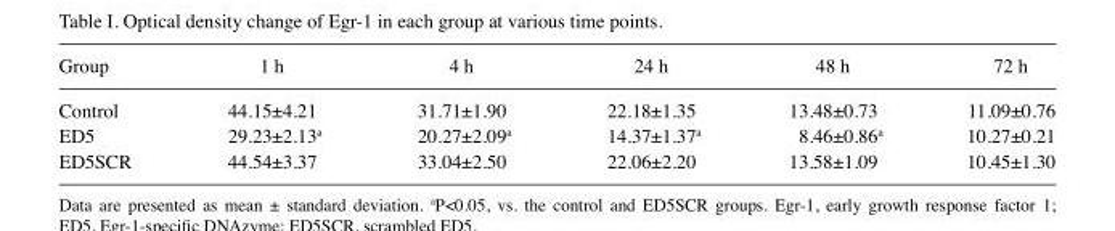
<table><thead><tr><td>Group</td><td>1 h</td><td>4 h</td><td>24 h</td><td>48 h</td><td>72 h</td></tr></thead><tbody><tr><td>Control</td><td>44.15±4.21</td><td>31.71±1.90</td><td>22.18±1.35</td><td>13.48±0.73</td><td>11.09±0.76</td></tr><tr><td>ED5</td><td>29.23±2.13<sup>a</sup></td><td>20.27±2.09<sup>a</sup></td><td>14.37±1.37<sup>a</sup></td><td>8.46±0.86<sup>a</sup></td><td>10.27±0.21</td></tr><tr><td>ED5SCR</td><td>44.54±3.37</td><td>33.04±2.50</td><td>22.06±2.20</td><td>13.58±1.09</td><td>10.45±1.30</td></tr></tbody></table>